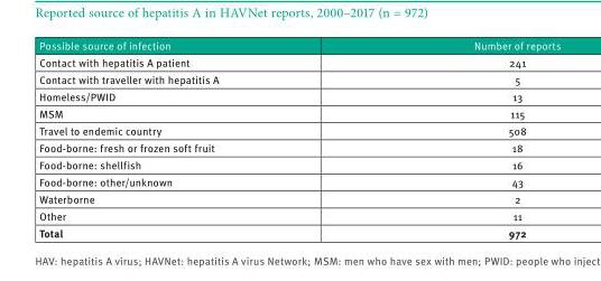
<table><thead><tr><td>Possible source of infection</td><td>Number of reports</td></tr></thead><tbody><tr><td>Contact with hepatitis A patient</td><td>241</td></tr><tr><td>Contact with traveller with hepatitis A</td><td>5</td></tr><tr><td>Homeless/PWID</td><td>13</td></tr><tr><td>MSM</td><td>115</td></tr><tr><td>Travel to endemic country</td><td>508</td></tr><tr><td>Food-borne: fresh or frozen soft fruit</td><td>18</td></tr><tr><td>Food-borne: shellfish</td><td>16</td></tr><tr><td>Food-borne: other/unknown</td><td>43</td></tr><tr><td>Waterborne</td><td>2</td></tr><tr><td>Other</td><td>11</td></tr><tr><td>Total</td><td>972</td></tr></tbody></table>